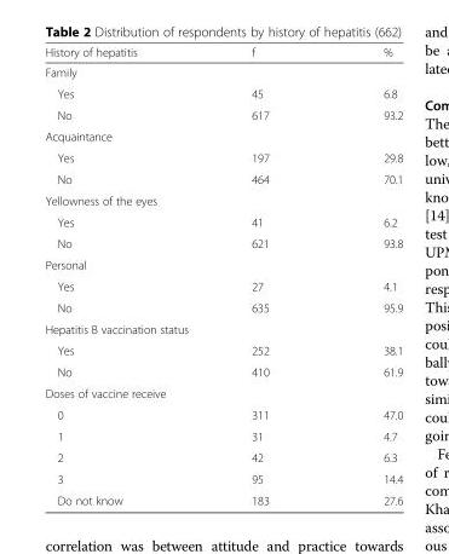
<table><thead><tr><td>History of hepatitis</td><td>f</td><td>%</td></tr></thead><tbody><tr><td colspan="3">Family</td></tr><tr><td>Yes</td><td>45</td><td>6.8</td></tr><tr><td>No</td><td>617</td><td>93.2</td></tr><tr><td colspan="3">Acquaintance</td></tr><tr><td>Yes</td><td>197</td><td>29.8</td></tr><tr><td>No</td><td>464</td><td>70.1</td></tr><tr><td colspan="3">Yellowness of the eyes</td></tr><tr><td>Yes</td><td>41</td><td>6.2</td></tr><tr><td>No</td><td>621</td><td>93.8</td></tr><tr><td colspan="3">Personal</td></tr><tr><td>Yes</td><td>27</td><td>4.1</td></tr><tr><td>No</td><td>635</td><td>95.9</td></tr><tr><td colspan="3">Hepatitis B vaccination status</td></tr><tr><td>Yes</td><td>252</td><td>38.1</td></tr><tr><td>No</td><td>410</td><td>61.9</td></tr><tr><td colspan="3">Doses of vaccine receive</td></tr><tr><td>0</td><td>311</td><td>47.0</td></tr><tr><td>1</td><td>31</td><td>4.7</td></tr><tr><td>2</td><td>42</td><td>6.3</td></tr><tr><td>3</td><td>95</td><td>14.4</td></tr><tr><td>Do not know</td><td>183</td><td>27.6</td></tr></tbody></table>